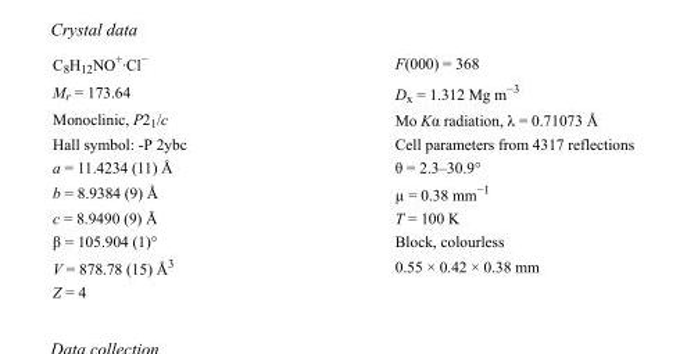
<table><tbody><tr><td>C<sub>8</sub>H<sub>12</sub>NO<sup>+</sup>·Cl<sup>−</sup></td><td>F(000) = 368</td></tr><tr><td>M<sub>r</sub> = 173.64</td><td>D<sub>x</sub> = 1.312 Mg m<sup>−3</sup></td></tr><tr><td>Monoclinic, P2<sub>1</sub>/c</td><td>Mo Kα radiation, λ = 0.71073 Å</td></tr><tr><td>Hall symbol: -P 2ybc</td><td>Cell parameters from 4317 reflections</td></tr><tr><td>a = 11.4234 (11) Å</td><td>θ = 2.3–30.9°</td></tr><tr><td>b = 8.9384 (9) Å</td><td>µ = 0.38 mm<sup>−1</sup></td></tr><tr><td>c = 8.9490 (9) Å</td><td>T = 100 K</td></tr><tr><td>β = 105.904 (1)°</td><td>Block, colourless</td></tr><tr><td>V = 878.78 (15) Å<sup>3</sup></td><td>0.55 × 0.42 × 0.38 mm</td></tr><tr><td>Z = 4</td><td></td></tr></tbody></table>